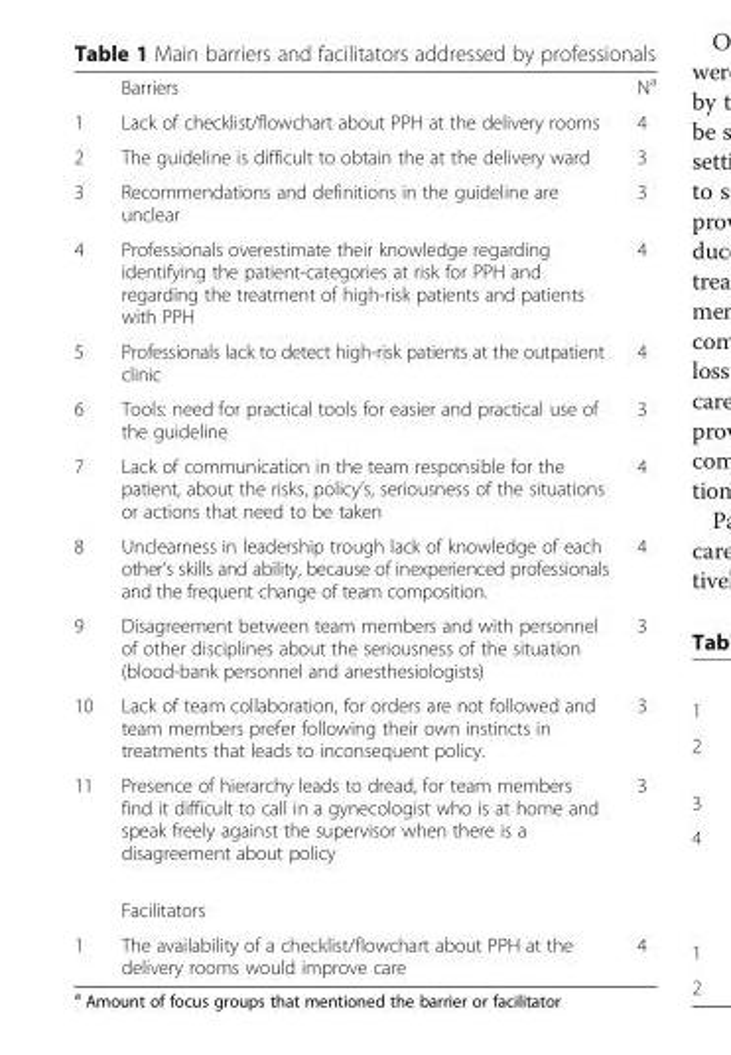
<table><thead><tr><td></td><td>Barriers</td><td>N<sup>a</sup></td></tr></thead><tbody><tr><td>1</td><td>Lack of checklist/flowchart about PPH at the delivery rooms</td><td>4</td></tr><tr><td>2</td><td>The guideline is difficult to obtain the at the delivery ward</td><td>3</td></tr><tr><td>3</td><td>Recommendations and definitions in the guideline are unclear</td><td>3</td></tr><tr><td>4</td><td>Professionals overestimate their knowledge regarding identifying the patient-categories at risk for PPH and regarding the treatment of high-risk patients and patients with PPH</td><td>4</td></tr><tr><td>5</td><td>Professionals lack to detect high-risk patients at the outpatient clinic</td><td>4</td></tr><tr><td>6</td><td>Tools: need for practical tools for easier and practical use of the guideline</td><td>3</td></tr><tr><td>7</td><td>Lack of communication in the team responsible for the patient, about the risks, policy’s, seriousness of the situations or actions that need to be taken</td><td>4</td></tr><tr><td>8</td><td>Unclearness in leadership trough lack of knowledge of each other’s skills and ability, because of inexperienced professionals and the frequent change of team composition.</td><td>4</td></tr><tr><td>9</td><td>Disagreement between team members and with personnel of other disciplines about the seriousness of the situation (blood-bank personnel and anesthesiologists)</td><td>3</td></tr><tr><td>10</td><td>Lack of team collaboration, for orders are not followed and team members prefer following their own instincts in treatments that leads to inconsequent policy.</td><td>3</td></tr><tr><td rowspan="2">11</td><td>Presence of hierarchy leads to dread, for team members find it difficult to call in a gynecologist who is at home and speak freely against the supervisor when there is a disagreement about policy</td><td>3</td></tr><tr><td>Facilitators</td><td></td></tr><tr><td>1</td><td>The availability of a checklist/flowchart about PPH at the delivery rooms would improve care</td><td>4</td></tr></tbody></table>